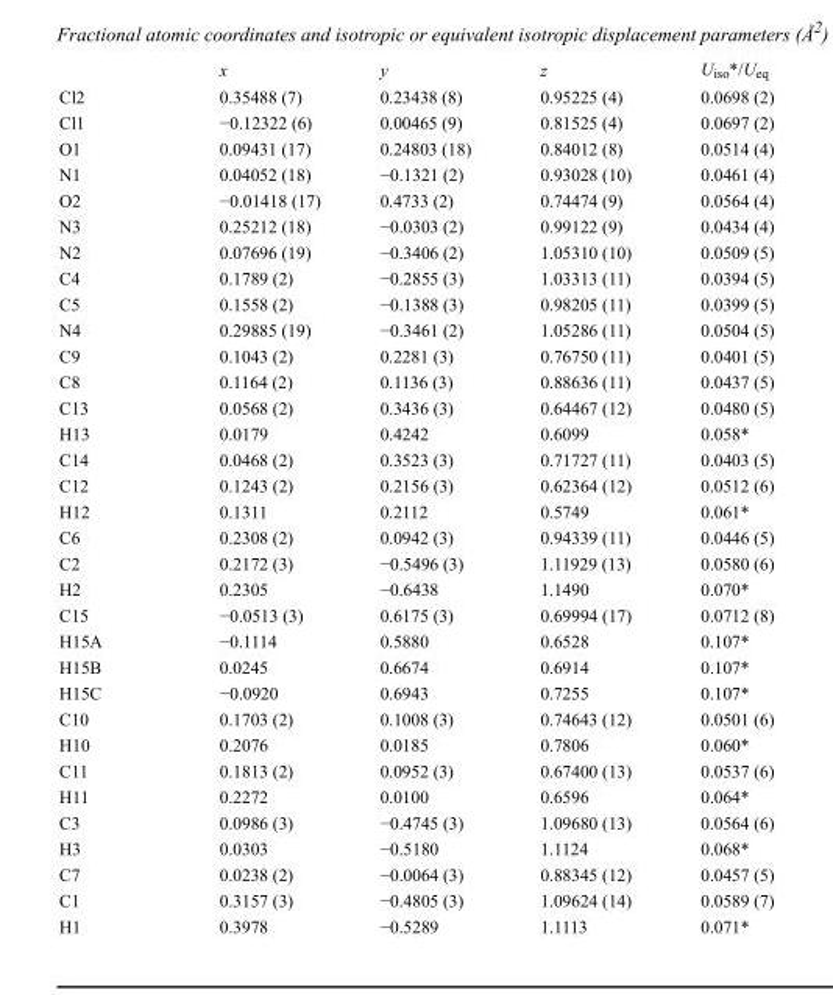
<table><thead><tr><td></td><td>x</td><td>y</td><td>z</td><td>U<sub>iso</sub>*/U<sub>eq</sub></td></tr></thead><tbody><tr><td>Cl2</td><td>0.35488 (7)</td><td>0.23438 (8)</td><td>0.95225 (4)</td><td>0.0698 (2)</td></tr><tr><td>Cl1</td><td>−0.12322 (6)</td><td>0.00465 (9)</td><td>0.81525 (4)</td><td>0.0697 (2)</td></tr><tr><td>O1</td><td>0.09431 (17)</td><td>0.24803 (18)</td><td>0.84012 (8)</td><td>0.0514 (4)</td></tr><tr><td>N1</td><td>0.04052 (18)</td><td>−0.1321 (2)</td><td>0.93028 (10)</td><td>0.0461 (4)</td></tr><tr><td>O2</td><td>−0.01418 (17)</td><td>0.4733 (2)</td><td>0.74474 (9)</td><td>0.0564 (4)</td></tr><tr><td>N3</td><td>0.25212 (18)</td><td>−0.0303 (2)</td><td>0.99122 (9)</td><td>0.0434 (4)</td></tr><tr><td>N2</td><td>0.07696 (19)</td><td>−0.3406 (2)</td><td>1.05310 (10)</td><td>0.0509 (5)</td></tr><tr><td>C4</td><td>0.1789 (2)</td><td>−0.2855 (3)</td><td>1.03313 (11)</td><td>0.0394 (5)</td></tr><tr><td>C5</td><td>0.1558 (2)</td><td>−0.1388 (3)</td><td>0.98205 (11)</td><td>0.0399 (5)</td></tr><tr><td>N4</td><td>0.29885 (19)</td><td>−0.3461 (2)</td><td>1.05286 (11)</td><td>0.0504 (5)</td></tr><tr><td>C9</td><td>0.1043 (2)</td><td>0.2281 (3)</td><td>0.76750 (11)</td><td>0.0401 (5)</td></tr><tr><td>C8</td><td>0.1164 (2)</td><td>0.1136 (3)</td><td>0.88636 (11)</td><td>0.0437 (5)</td></tr><tr><td>C13</td><td>0.0568 (2)</td><td>0.3436 (3)</td><td>0.64467 (12)</td><td>0.0480 (5)</td></tr><tr><td>H13</td><td>0.0179</td><td>0.4242</td><td>0.6099</td><td>0.058*</td></tr><tr><td>C14</td><td>0.0468 (2)</td><td>0.3523 (3)</td><td>0.71727 (11)</td><td>0.0403 (5)</td></tr><tr><td>C12</td><td>0.1243 (2)</td><td>0.2156 (3)</td><td>0.62364 (12)</td><td>0.0512 (6)</td></tr><tr><td>H12</td><td>0.1311</td><td>0.2112</td><td>0.5749</td><td>0.061*</td></tr><tr><td>C6</td><td>0.2308 (2)</td><td>0.0942 (3)</td><td>0.94339 (11)</td><td>0.0446 (5)</td></tr><tr><td>C2</td><td>0.2172 (3)</td><td>−0.5496 (3)</td><td>1.11929 (13)</td><td>0.0580 (6)</td></tr><tr><td>H2</td><td>0.2305</td><td>−0.6438</td><td>1.1490</td><td>0.070*</td></tr><tr><td>C15</td><td>−0.0513 (3)</td><td>0.6175 (3)</td><td>0.69994 (17)</td><td>0.0712 (8)</td></tr><tr><td>H15A</td><td>−0.1114</td><td>0.5880</td><td>0.6528</td><td>0.107*</td></tr><tr><td>H15B</td><td>0.0245</td><td>0.6674</td><td>0.6914</td><td>0.107*</td></tr><tr><td>H15C</td><td>−0.0920</td><td>0.6943</td><td>0.7255</td><td>0.107*</td></tr><tr><td>C10</td><td>0.1703 (2)</td><td>0.1008 (3)</td><td>0.74643 (12)</td><td>0.0501 (6)</td></tr><tr><td>H10</td><td>0.2076</td><td>0.0185</td><td>0.7806</td><td>0.060*</td></tr><tr><td>C11</td><td>0.1813 (2)</td><td>0.0952 (3)</td><td>0.67400 (13)</td><td>0.0537 (6)</td></tr><tr><td>H11</td><td>0.2272</td><td>0.0100</td><td>0.6596</td><td>0.064*</td></tr><tr><td>C3</td><td>0.0986 (3)</td><td>−0.4745 (3)</td><td>1.09680 (13)</td><td>0.0564 (6)</td></tr><tr><td>H3</td><td>0.0303</td><td>−0.5180</td><td>1.1124</td><td>0.068*</td></tr><tr><td>C7</td><td>0.0238 (2)</td><td>−0.0064 (3)</td><td>0.88345 (12)</td><td>0.0457 (5)</td></tr><tr><td>C1</td><td>0.3157 (3)</td><td>−0.4805 (3)</td><td>1.09624 (14)</td><td>0.0589 (7)</td></tr><tr><td>H1</td><td>0.3978</td><td>−0.5289</td><td>1.1113</td><td>0.071*</td></tr></tbody></table>